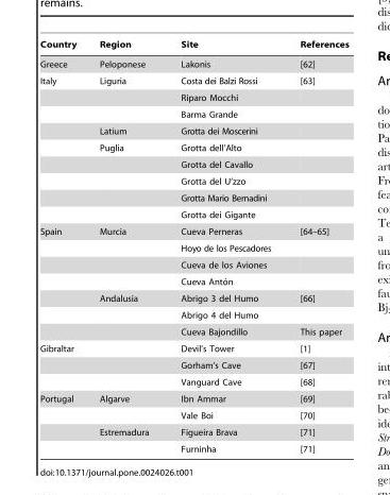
<table><thead><tr><td>Country</td><td>Region</td><td>Site</td><td>References</td></tr></thead><tbody><tr><td>Greece</td><td>Peloponese</td><td>Lakonis</td><td>[62]</td></tr><tr><td rowspan="9">Italy</td><td>Liguria</td><td>Costa dei Balzi Rossi</td><td>[63]</td></tr><tr><td></td><td>Riparo Mocchi</td><td></td></tr><tr><td></td><td>Barma Grande</td><td></td></tr><tr><td>Latium</td><td>Grotta dei Moscerini</td><td></td></tr><tr><td>Puglia</td><td>Grotta dell’Alto</td><td></td></tr><tr><td></td><td>Grotta del Cavallo</td><td></td></tr><tr><td></td><td>Grotta del U’zzo</td><td></td></tr><tr><td></td><td>Grotta Mario Bernadini</td><td></td></tr><tr><td></td><td>Grotta dei Gigante</td><td></td></tr><tr><td rowspan="7">Spain</td><td>Murcia</td><td>Cueva Perneras</td><td>[64–65]</td></tr><tr><td></td><td>Hoyo de los Pescadores</td><td></td></tr><tr><td></td><td>Cueva de los Aviones</td><td></td></tr><tr><td></td><td>Cueva Anto´n</td><td></td></tr><tr><td>Andalusia</td><td>Abrigo 3 del Humo</td><td>[66]</td></tr><tr><td></td><td>Abrigo 4 del Humo</td><td></td></tr><tr><td></td><td>Cueva Bajondillo</td><td>This paper</td></tr><tr><td rowspan="3">Gibraltar</td><td></td><td>Devil’s Tower</td><td>[1]</td></tr><tr><td></td><td>Gorham’s Cave</td><td>[67]</td></tr><tr><td></td><td>Vanguard Cave</td><td>[68]</td></tr><tr><td rowspan="4">Portugal</td><td>Algarve</td><td>Ibn Ammar</td><td>[69]</td></tr><tr><td></td><td>Vale Boi</td><td>[70]</td></tr><tr><td>Estremadura</td><td>Figueira Brava</td><td>[71]</td></tr><tr><td></td><td>Furninha</td><td>[71]</td></tr></tbody></table>